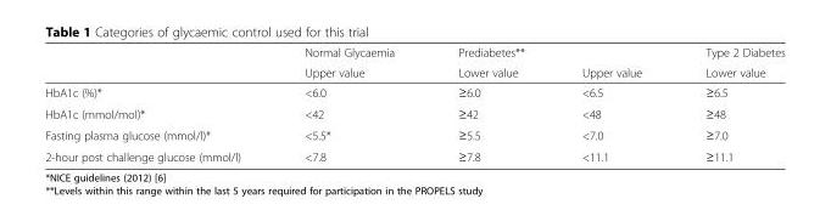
<table><thead><tr><td rowspan="2"></td><td rowspan="2">Normal Glycaemia Upper value</td><td colspan="2">Prediabetes**</td><td rowspan="2">Type 2 Diabetes Lower value</td></tr><tr><td>Lower value</td><td>Upper value</td></tr></thead><tbody><tr><td>HbA1c (%)*</td><td>&lt;6.0</td><td>≥6.0</td><td>&lt;6.5</td><td>≥6.5</td></tr><tr><td>HbA1c (mmol/mol)*</td><td>&lt;42</td><td>≥42</td><td>&lt;48</td><td>≥48</td></tr><tr><td>Fasting plasma glucose (mmol/l)*</td><td>&lt;5.5*</td><td>≥5.5</td><td>&lt;7.0</td><td>≥7.0</td></tr><tr><td>2-hour post challenge glucose (mmol/l)</td><td>&lt;7.8</td><td>≥7.8</td><td>&lt;11.1</td><td>≥11.1</td></tr></tbody></table>